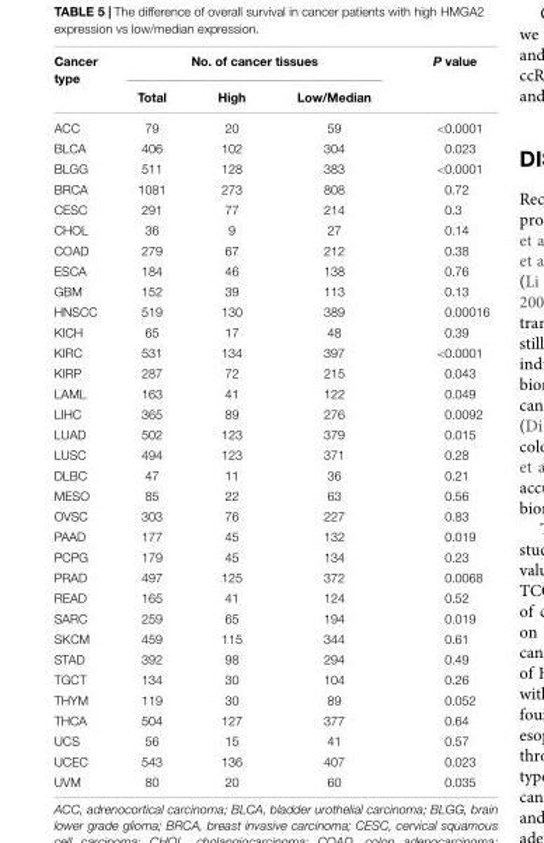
<table><thead><tr><td rowspan="2">Cancer type</td><td colspan="3">No. of cancer tissues</td><td rowspan="2">P value</td></tr><tr><td>Total</td><td>High</td><td>Low/Median</td></tr></thead><tbody><tr><td>ACC</td><td>79</td><td>20</td><td>59</td><td>&lt;0.0001</td></tr><tr><td>BLCA</td><td>406</td><td>102</td><td>304</td><td>0.023</td></tr><tr><td>BLGG</td><td>511</td><td>128</td><td>383</td><td>&lt;0.0001</td></tr><tr><td>BRCA</td><td>1081</td><td>273</td><td>808</td><td>0.72</td></tr><tr><td>CESC</td><td>291</td><td>77</td><td>214</td><td>0.3</td></tr><tr><td>CHOL</td><td>36</td><td>9</td><td>27</td><td>0.14</td></tr><tr><td>COAD</td><td>279</td><td>67</td><td>212</td><td>0.38</td></tr><tr><td>ESCA</td><td>184</td><td>46</td><td>138</td><td>0.76</td></tr><tr><td>GBM</td><td>152</td><td>39</td><td>113</td><td>0.13</td></tr><tr><td>HNSCC</td><td>519</td><td>130</td><td>389</td><td>0.00016</td></tr><tr><td>KICH</td><td>65</td><td>17</td><td>48</td><td>0.39</td></tr><tr><td>KIRC</td><td>531</td><td>134</td><td>397</td><td>&lt;0.0001</td></tr><tr><td>KIRP</td><td>287</td><td>72</td><td>215</td><td>0.043</td></tr><tr><td>LAML</td><td>163</td><td>41</td><td>122</td><td>0.049</td></tr><tr><td>LIHC</td><td>365</td><td>89</td><td>276</td><td>0.0092</td></tr><tr><td>LUAD</td><td>502</td><td>123</td><td>379</td><td>0.015</td></tr><tr><td>LUSC</td><td>494</td><td>123</td><td>371</td><td>0.28</td></tr><tr><td>DLBC</td><td>47</td><td>11</td><td>36</td><td>0.21</td></tr><tr><td>MESO</td><td>85</td><td>22</td><td>63</td><td>0.56</td></tr><tr><td>OVSC</td><td>303</td><td>76</td><td>227</td><td>0.83</td></tr><tr><td>PAAD</td><td>177</td><td>45</td><td>132</td><td>0.019</td></tr><tr><td>PCPG</td><td>179</td><td>45</td><td>134</td><td>0.23</td></tr><tr><td>PRAD</td><td>497</td><td>125</td><td>372</td><td>0.0068</td></tr><tr><td>READ</td><td>165</td><td>41</td><td>124</td><td>0.52</td></tr><tr><td>SARC</td><td>259</td><td>65</td><td>194</td><td>0.019</td></tr><tr><td>SKCM</td><td>459</td><td>115</td><td>344</td><td>0.61</td></tr><tr><td>STAD</td><td>392</td><td>98</td><td>294</td><td>0.49</td></tr><tr><td>TGCT</td><td>134</td><td>30</td><td>104</td><td>0.26</td></tr><tr><td>THYM</td><td>119</td><td>30</td><td>89</td><td>0.052</td></tr><tr><td>THCA</td><td>504</td><td>127</td><td>377</td><td>0.64</td></tr><tr><td>UCS</td><td>56</td><td>15</td><td>41</td><td>0.57</td></tr><tr><td>UCEC</td><td>543</td><td>136</td><td>407</td><td>0.023</td></tr><tr><td>UVM</td><td>80</td><td>20</td><td>60</td><td>0.035</td></tr></tbody></table>